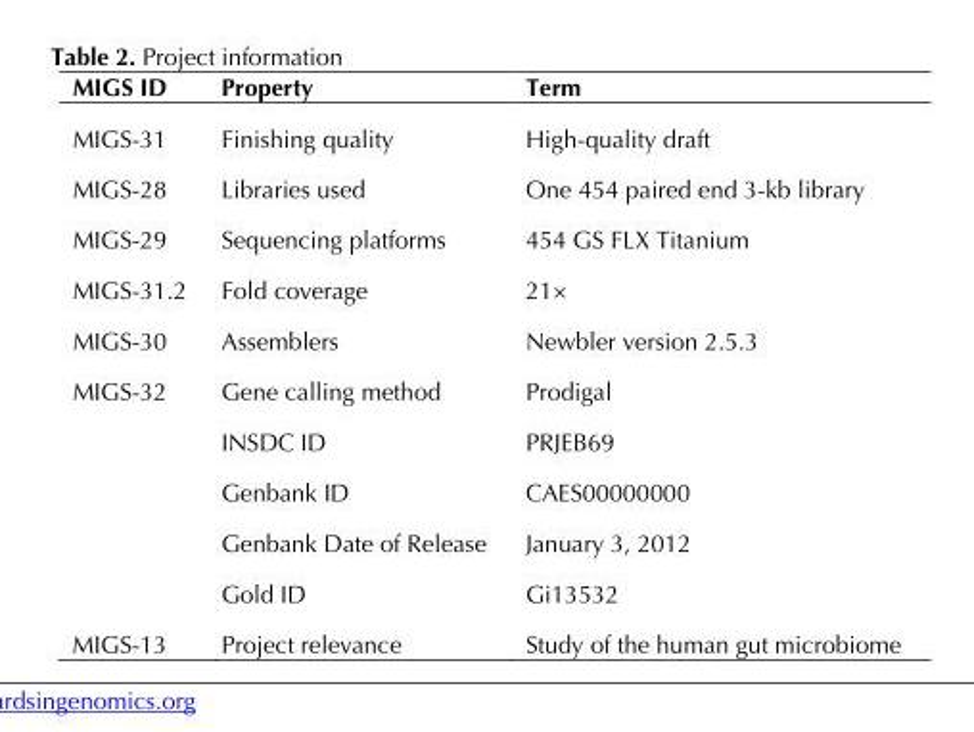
<table><thead><tr><td>MIGS ID</td><td>Property</td><td>Term</td></tr></thead><tbody><tr><td>MIGS-31</td><td>Finishing quality</td><td>High-quality draft</td></tr><tr><td>MIGS-28</td><td>Libraries used</td><td>One 454 paired end 3-kb library</td></tr><tr><td>MIGS-29</td><td>Sequencing platforms</td><td>454 GS FLX Titanium</td></tr><tr><td>MIGS-31.2</td><td>Fold coverage</td><td>21×</td></tr><tr><td>MIGS-30</td><td>Assemblers</td><td>Newbler version 2.5.3</td></tr><tr><td rowspan="5">MIGS-32</td><td>Gene calling method</td><td>Prodigal</td></tr><tr><td>INSDC ID</td><td>PRJEB69</td></tr><tr><td>Genbank ID</td><td>CAES00000000</td></tr><tr><td>Genbank Date of Release</td><td>January 3, 2012</td></tr><tr><td>Gold ID</td><td>Gi13532</td></tr><tr><td>MIGS-13</td><td>Project relevance</td><td>Study of the human gut microbiome</td></tr></tbody></table>